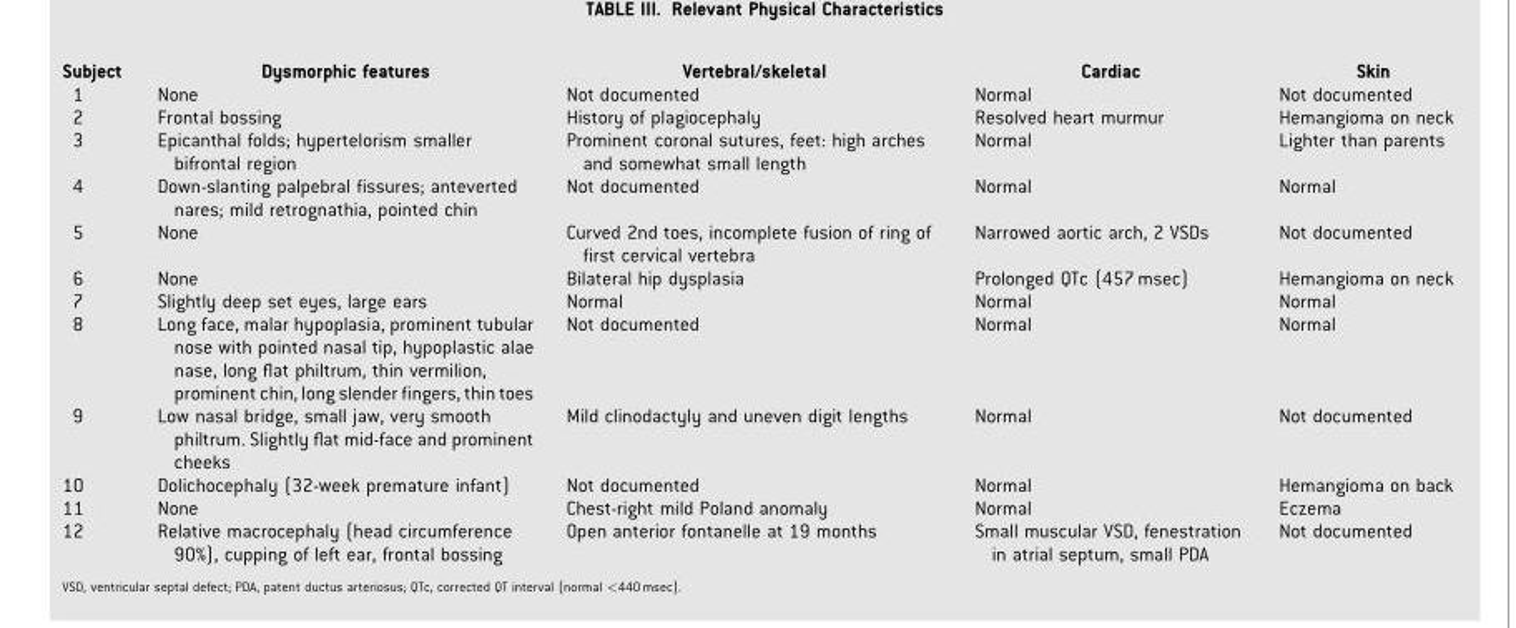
<table><thead><tr><td>Subject</td><td>Dysmorphic features</td><td>Vertebral/skeletal</td><td>Cardiac</td><td>Skin</td></tr></thead><tbody><tr><td>1</td><td>None</td><td>Not documented</td><td>Normal</td><td>Not documented</td></tr><tr><td>2</td><td>Frontal bossing</td><td>History of plagiocephaly</td><td>Resolved heart murmur</td><td>Hemangioma on neck</td></tr><tr><td>3</td><td>Epicanthal folds; hypertelorism smaller bifrontal region</td><td>Prominent coronal sutures, feet: high arches and somewhat small length</td><td>Normal</td><td>Lighter than parents</td></tr><tr><td>4</td><td>Down-slanting palpebral fissures; anteverted nares; mild retrognathia, pointed chin</td><td>Not documented</td><td>Normal</td><td>Normal</td></tr><tr><td>5</td><td>None</td><td>Curved 2nd toes, incomplete fusion of ring of first cervical vertebra</td><td>Narrowed aortic arch, 2 VSDs</td><td>Not documented</td></tr><tr><td>6</td><td>None</td><td>Bilateral hip dysplasia</td><td>Prolonged QTc (457 msec)</td><td>Hemangioma on neck</td></tr><tr><td>7</td><td>Slightly deep set eyes, large ears</td><td>Normal</td><td>Normal</td><td>Normal</td></tr><tr><td>8</td><td>Long face, malar hypoplasia, prominent tubular nose with pointed nasal tip, hypoplastic alae nase, long flat philtrum, thin vermilion, prominent chin, long slender fingers, thin toes</td><td>Not documented</td><td>Normal</td><td>Normal</td></tr><tr><td>9</td><td>Low nasal bridge, small jaw, very smooth philtrum. Slightly flat mid-face and prominent cheeks</td><td>Mild clinodactyly and uneven digit lengths</td><td>Normal</td><td>Not documented</td></tr><tr><td>10</td><td>Dolichocephaly (32-week premature infant)</td><td>Not documented</td><td>Normal</td><td>Hemangioma on back</td></tr><tr><td>11</td><td>None</td><td>Chest-right mild Poland anomaly</td><td>Normal</td><td>Eczema</td></tr><tr><td>12</td><td>Relative macrocephaly (head circumference 90%), cupping of left ear, frontal bossing</td><td>Open anterior fontanelle at 19 months</td><td>Small muscular VSD, fenestration in atrial septum, small PDA</td><td>Not documented</td></tr></tbody></table>